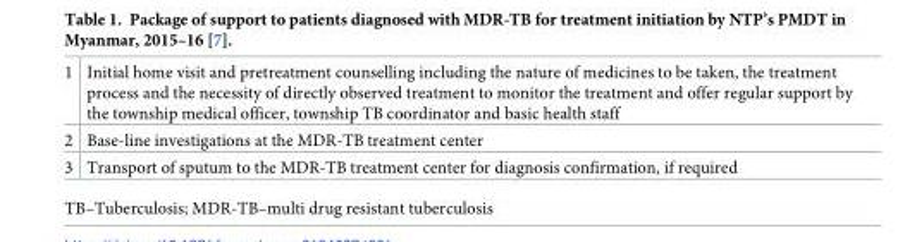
<table><tbody><tr><td>1</td><td>Initial home visit and pretreatment counselling including the nature of medicines to be taken, the treatment process and the necessity of directly observed treatment to monitor the treatment and offer regular support by the township medical officer, township TB coordinator and basic health staff</td></tr><tr><td>2</td><td>Base-line investigations at the MDR-TB treatment center</td></tr><tr><td>3</td><td>Transport of sputum to the MDR-TB treatment center for diagnosis confirmation, if required</td></tr></tbody></table>